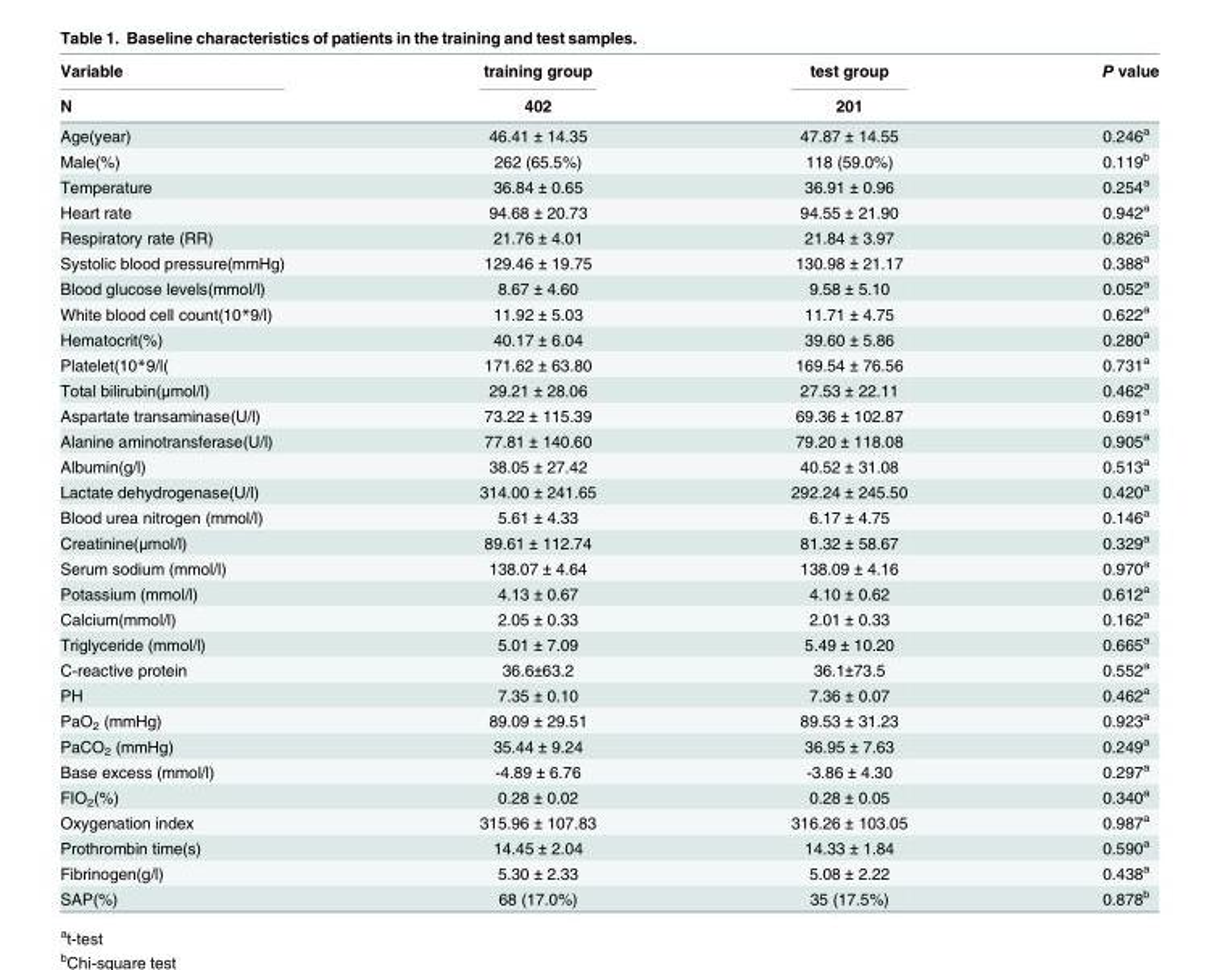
<table><thead><tr><td rowspan="2">Variable N</td><td rowspan="2">training group 402</td><td rowspan="2">test group 201</td><td rowspan="2">P value</td></tr><tr></tr></thead><tbody><tr><td>Age(year)</td><td>46.41 ± 14.35</td><td>47.87 ± 14.55</td><td>0.246<sup>a</sup></td></tr><tr><td>Male(%)</td><td>262 (65.5%)</td><td>118 (59.0%)</td><td>0.119<sup>b</sup></td></tr><tr><td>Temperature</td><td>36.84 ± 0.65</td><td>36.91 ± 0.96</td><td>0.254<sup>a</sup></td></tr><tr><td>Heart rate</td><td>94.68 ± 20.73</td><td>94.55 ± 21.90</td><td>0.942<sup>a</sup></td></tr><tr><td>Respiratory rate (RR)</td><td>21.76 ± 4.01</td><td>21.84 ± 3.97</td><td>0.826<sup>a</sup></td></tr><tr><td>Systolic blood pressure(mmHg)</td><td>129.46 ± 19.75</td><td>130.98 ± 21.17</td><td>0.388<sup>a</sup></td></tr><tr><td>Blood glucose levels(mmol/l)</td><td>8.67 ± 4.60</td><td>9.58 ± 5.10</td><td>0.052<sup>a</sup></td></tr><tr><td>White blood cell count(10*9/l)</td><td>11.92 ± 5.03</td><td>11.71 ± 4.75</td><td>0.622<sup>a</sup></td></tr><tr><td>Hematocrit(%)</td><td>40.17 ± 6.04</td><td>39.60 ± 5.86</td><td>0.280<sup>a</sup></td></tr><tr><td>Platelet(10*9/l(</td><td>171.62 ± 63.80</td><td>169.54 ± 76.56</td><td>0.731<sup>a</sup></td></tr><tr><td>Total bilirubin(μmol/l)</td><td>29.21 ± 28.06</td><td>27.53 ± 22.11</td><td>0.462<sup>a</sup></td></tr><tr><td>Aspartate transaminase(U/l)</td><td>73.22 ± 115.39</td><td>69.36 ± 102.87</td><td>0.691<sup>a</sup></td></tr><tr><td>Alanine aminotransferase(U/l)</td><td>77.81 ± 140.60</td><td>79.20 ± 118.08</td><td>0.905<sup>a</sup></td></tr><tr><td>Albumin(g/l)</td><td>38.05 ± 27.42</td><td>40.52 ± 31.08</td><td>0.513<sup>a</sup></td></tr><tr><td>Lactate dehydrogenase(U/l)</td><td>314.00 ± 241.65</td><td>292.24 ± 245.50</td><td>0.420<sup>a</sup></td></tr><tr><td>Blood urea nitrogen (mmol/l)</td><td>5.61 ± 4.33</td><td>6.17 ± 4.75</td><td>0.146<sup>a</sup></td></tr><tr><td>Creatinine(μmol/l)</td><td>89.61 ± 112.74</td><td>81.32 ± 58.67</td><td>0.329<sup>a</sup></td></tr><tr><td>Serum sodium (mmol/l)</td><td>138.07 ± 4.64</td><td>138.09 ± 4.16</td><td>0.970<sup>a</sup></td></tr><tr><td>Potassium (mmol/l)</td><td>4.13 ± 0.67</td><td>4.10 ± 0.62</td><td>0.612<sup>a</sup></td></tr><tr><td>Calcium(mmol/l)</td><td>2.05 ± 0.33</td><td>2.01 ± 0.33</td><td>0.162<sup>a</sup></td></tr><tr><td>Triglyceride (mmol/l)</td><td>5.01 ± 7.09</td><td>5.49 ± 10.20</td><td>0.665<sup>a</sup></td></tr><tr><td>C-reactive protein</td><td>36.6±63.2</td><td>36.1±73.5</td><td>0.552<sup>a</sup></td></tr><tr><td>PH</td><td>7.35 ± 0.10</td><td>7.36 ± 0.07</td><td>0.462<sup>a</sup></td></tr><tr><td>PaO<sub>2</sub> (mmHg)</td><td>89.09 ± 29.51</td><td>89.53 ± 31.23</td><td>0.923<sup>a</sup></td></tr><tr><td>PaCO<sub>2</sub> (mmHg)</td><td>35.44 ± 9.24</td><td>36.95 ± 7.63</td><td>0.249<sup>a</sup></td></tr><tr><td>Base excess (mmol/l)</td><td>-4.89 ± 6.76</td><td>-3.86 ± 4.30</td><td>0.297<sup>a</sup></td></tr><tr><td>FIO<sub>2</sub>(%)</td><td>0.28 ± 0.02</td><td>0.28 ± 0.05</td><td>0.340<sup>a</sup></td></tr><tr><td>Oxygenation index</td><td>315.96 ± 107.83</td><td>316.26 ± 103.05</td><td>0.987<sup>a</sup></td></tr><tr><td>Prothrombin time(s)</td><td>14.45 ± 2.04</td><td>14.33 ± 1.84</td><td>0.590<sup>a</sup></td></tr><tr><td>Fibrinogen(g/l)</td><td>5.30 ± 2.33</td><td>5.08 ± 2.22</td><td>0.438<sup>a</sup></td></tr><tr><td>SAP(%)</td><td>68 (17.0%)</td><td>35 (17.5%)</td><td>0.878<sup>b</sup></td></tr></tbody></table>